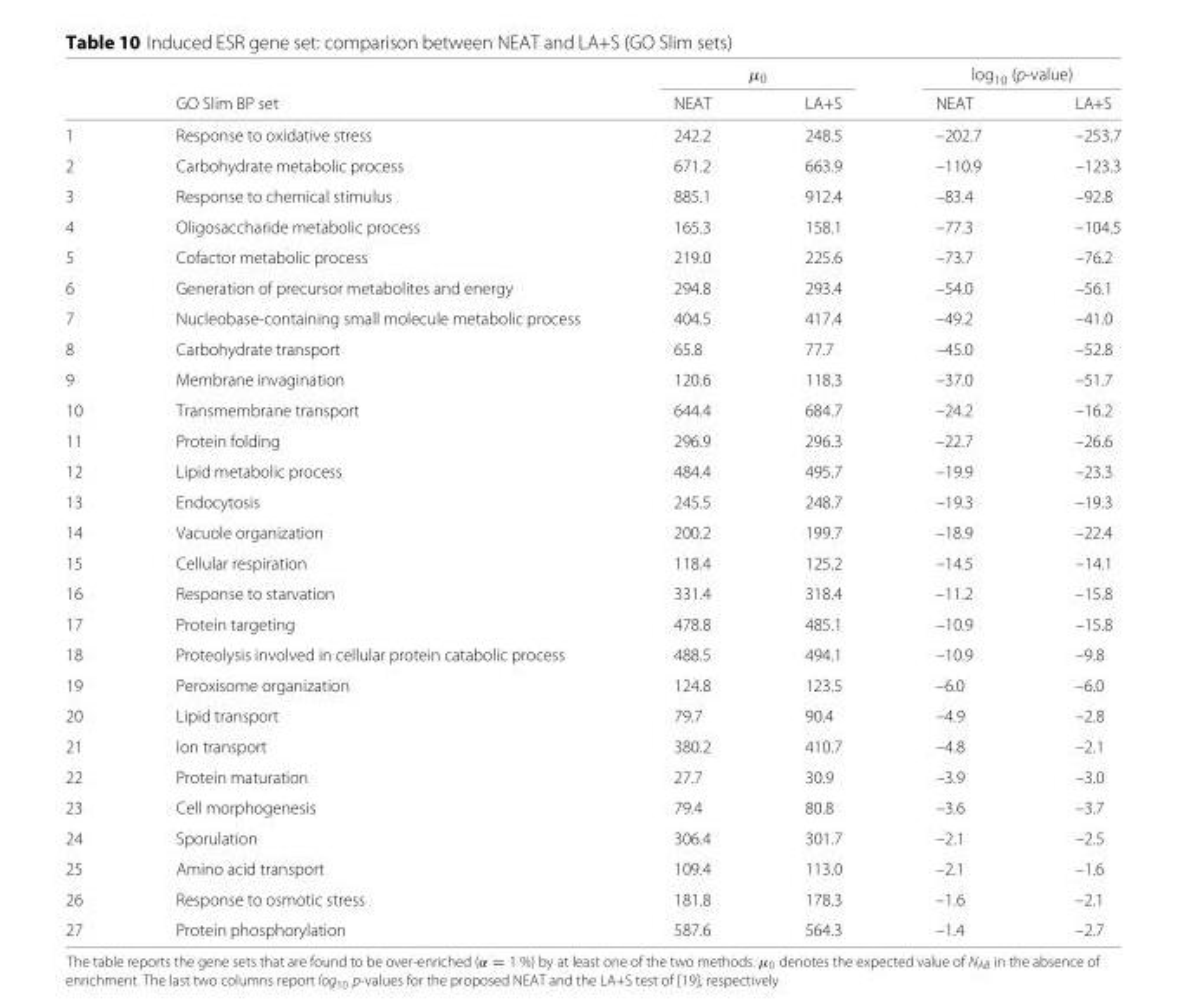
<table><thead><tr><td rowspan="2"></td><td rowspan="2">GO Slim BP set</td><td colspan="2">μ<sub>0</sub></td><td colspan="2">log10 (p-value)</td></tr><tr><td>NEAT</td><td>LA+S</td><td>NEAT</td><td>LA+S</td></tr></thead><tbody><tr><td>1</td><td>Response to oxidative stress</td><td>242.2</td><td>248.5</td><td>–202.7</td><td>–253.7</td></tr><tr><td>2</td><td>Carbohydrate metabolic process</td><td>671.2</td><td>663.9</td><td>–110.9</td><td>–123.3</td></tr><tr><td>3</td><td>Response to chemical stimulus</td><td>885.1</td><td>912.4</td><td>–83.4</td><td>–92.8</td></tr><tr><td>4</td><td>Oligosaccharide metabolic process</td><td>165.3</td><td>158.1</td><td>–77.3</td><td>–104.5</td></tr><tr><td>5</td><td>Cofactor metabolic process</td><td>219.0</td><td>225.6</td><td>–73.7</td><td>–76.2</td></tr><tr><td>6</td><td>Generation of precursor metabolites and energy</td><td>294.8</td><td>293.4</td><td>–54.0</td><td>–56.1</td></tr><tr><td>7</td><td>Nucleobase-containing small molecule metabolic process</td><td>404.5</td><td>417.4</td><td>–49.2</td><td>–41.0</td></tr><tr><td>8</td><td>Carbohydrate transport</td><td>65.8</td><td>77.7</td><td>–45.0</td><td>–52.8</td></tr><tr><td>9</td><td>Membrane invagination</td><td>120.6</td><td>118.3</td><td>–37.0</td><td>–51.7</td></tr><tr><td>10</td><td>Transmembrane transport</td><td>644.4</td><td>684.7</td><td>–24.2</td><td>–16.2</td></tr><tr><td>11</td><td>Protein folding</td><td>296.9</td><td>296.3</td><td>–22.7</td><td>–26.6</td></tr><tr><td>12</td><td>Lipid metabolic process</td><td>484.4</td><td>495.7</td><td>–19.9</td><td>–23.3</td></tr><tr><td>13</td><td>Endocytosis</td><td>245.5</td><td>248.7</td><td>–19.3</td><td>–19.3</td></tr><tr><td>14</td><td>Vacuole organization</td><td>200.2</td><td>199.7</td><td>–18.9</td><td>–22.4</td></tr><tr><td>15</td><td>Cellular respiration</td><td>118.4</td><td>125.2</td><td>–14.5</td><td>–14.1</td></tr><tr><td>16</td><td>Response to starvation</td><td>331.4</td><td>318.4</td><td>–11.2</td><td>–15.8</td></tr><tr><td>17</td><td>Protein targeting</td><td>478.8</td><td>485.1</td><td>–10.9</td><td>–15.8</td></tr><tr><td>18</td><td>Proteolysis involved in cellular protein catabolic process</td><td>488.5</td><td>494.1</td><td>–10.9</td><td>–9.8</td></tr><tr><td>19</td><td>Peroxisome organization</td><td>124.8</td><td>123.5</td><td>–6.0</td><td>–6.0</td></tr><tr><td>20</td><td>Lipid transport</td><td>79.7</td><td>90.4</td><td>–4.9</td><td>–2.8</td></tr><tr><td>21</td><td>Ion transport</td><td>380.2</td><td>410.7</td><td>–4.8</td><td>–2.1</td></tr><tr><td>22</td><td>Protein maturation</td><td>27.7</td><td>30.9</td><td>–3.9</td><td>–3.0</td></tr><tr><td>23</td><td>Cell morphogenesis</td><td>79.4</td><td>80.8</td><td>–3.6</td><td>–3.7</td></tr><tr><td>24</td><td>Sporulation</td><td>306.4</td><td>301.7</td><td>–2.1</td><td>–2.5</td></tr><tr><td>25</td><td>Amino acid transport</td><td>109.4</td><td>113.0</td><td>–2.1</td><td>–1.6</td></tr><tr><td>26</td><td>Response to osmotic stress</td><td>181.8</td><td>178.3</td><td>–1.6</td><td>–2.1</td></tr><tr><td>27</td><td>Protein phosphorylation</td><td>587.6</td><td>564.3</td><td>–1.4</td><td>–2.7</td></tr></tbody></table>